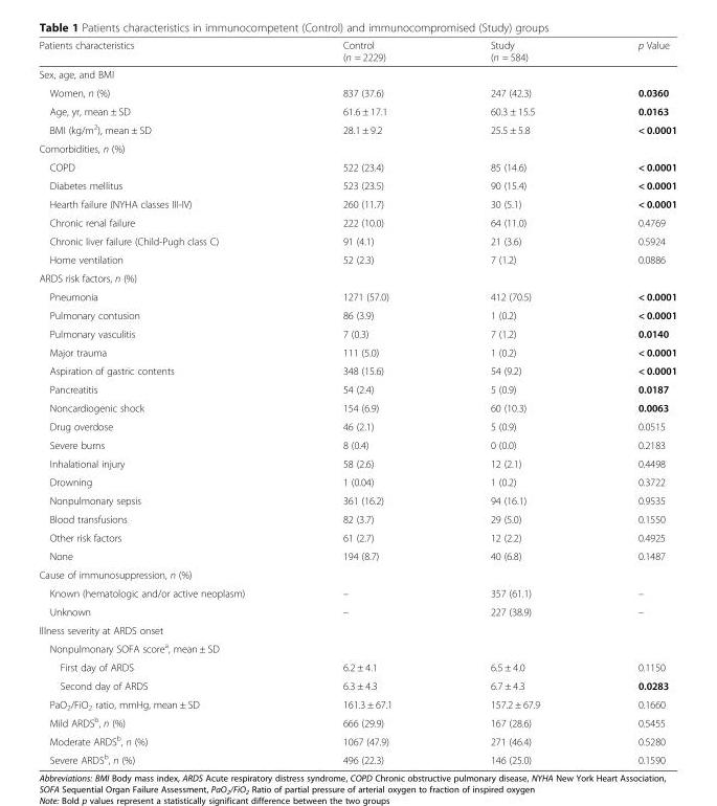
<table><thead><tr><td>Patients characteristics</td><td>Control (n = 2229)</td><td>Study (n = 584)</td><td>p Value</td></tr></thead><tbody><tr><td colspan="4">Sex, age, and BMI</td></tr><tr><td>Women, n (%)</td><td>837 (37.6)</td><td>247 (42.3)</td><td>0.0360</td></tr><tr><td>Age, yr, mean ± SD</td><td>61.6 ± 17.1</td><td>60.3 ± 15.5</td><td>0.0163</td></tr><tr><td>BMI (kg/m<sup>2</sup>), mean ± SD</td><td>28.1 ± 9.2</td><td>25.5 ± 5.8</td><td>&lt; 0.0001</td></tr><tr><td colspan="4">Comorbidities, n (%)</td></tr><tr><td>COPD</td><td>522 (23.4)</td><td>85 (14.6)</td><td>&lt; 0.0001</td></tr><tr><td>Diabetes mellitus</td><td>523 (23.5)</td><td>90 (15.4)</td><td>&lt; 0.0001</td></tr><tr><td>Hearth failure (NYHA classes III-IV)</td><td>260 (11.7)</td><td>30 (5.1)</td><td>&lt; 0.0001</td></tr><tr><td>Chronic renal failure</td><td>222 (10.0)</td><td>64 (11.0)</td><td>0.4769</td></tr><tr><td>Chronic liver failure (Child-Pugh class C)</td><td>91 (4.1)</td><td>21 (3.6)</td><td>0.5924</td></tr><tr><td>Home ventilation</td><td>52 (2.3)</td><td>7 (1.2)</td><td>0.0886</td></tr><tr><td colspan="4">ARDS risk factors, n (%)</td></tr><tr><td>Pneumonia</td><td>1271 (57.0)</td><td>412 (70.5)</td><td>&lt; 0.0001</td></tr><tr><td>Pulmonary contusion</td><td>86 (3.9)</td><td>1 (0.2)</td><td>&lt; 0.0001</td></tr><tr><td>Pulmonary vasculitis</td><td>7 (0.3)</td><td>7 (1.2)</td><td>0.0140</td></tr><tr><td>Major trauma</td><td>111 (5.0)</td><td>1 (0.2)</td><td>&lt; 0.0001</td></tr><tr><td>Aspiration of gastric contents</td><td>348 (15.6)</td><td>54 (9.2)</td><td>&lt; 0.0001</td></tr><tr><td>Pancreatitis</td><td>54 (2.4)</td><td>5 (0.9)</td><td>0.0187</td></tr><tr><td>Noncardiogenic shock</td><td>154 (6.9)</td><td>60 (10.3)</td><td>0.0063</td></tr><tr><td>Drug overdose</td><td>46 (2.1)</td><td>5 (0.9)</td><td>0.0515</td></tr><tr><td>Severe burns</td><td>8 (0.4)</td><td>0 (0.0)</td><td>0.2183</td></tr><tr><td>Inhalational injury</td><td>58 (2.6)</td><td>12 (2.1)</td><td>0.4498</td></tr><tr><td>Drowning</td><td>1 (0.04)</td><td>1 (0.2)</td><td>0.3722</td></tr><tr><td>Nonpulmonary sepsis</td><td>361 (16.2)</td><td>94 (16.1)</td><td>0.9535</td></tr><tr><td>Blood transfusions</td><td>82 (3.7)</td><td>29 (5.0)</td><td>0.1550</td></tr><tr><td>Other risk factors</td><td>61 (2.7)</td><td>12 (2.2)</td><td>0.4925</td></tr><tr><td>None</td><td>194 (8.7)</td><td>40 (6.8)</td><td>0.1487</td></tr><tr><td colspan="4">Cause of immunosuppression, n (%)</td></tr><tr><td>Known (hematologic and/or active neoplasm)</td><td>–</td><td>357 (61.1)</td><td>–</td></tr><tr><td>Unknown</td><td>–</td><td>227 (38.9)</td><td>–</td></tr><tr><td colspan="4">Illness severity at ARDS onset</td></tr><tr><td colspan="4">Nonpulmonary SOFA score<sup>a</sup>, mean ± SD</td></tr><tr><td>First day of ARDS</td><td>6.2 ± 4.1</td><td>6.5 ± 4.0</td><td>0.1150</td></tr><tr><td>Second day of ARDS</td><td>6.3 ± 4.3</td><td>6.7 ± 4.3</td><td>0.0283</td></tr><tr><td>PaO<sub>2</sub>/FiO<sub>2</sub> ratio, mmHg, mean ± SD</td><td>161.3 ± 67.1</td><td>157.2 ± 67.9</td><td>0.1660</td></tr><tr><td>Mild ARDS<sup>b</sup>, n (%)</td><td>666 (29.9)</td><td>167 (28.6)</td><td>0.5455</td></tr><tr><td>Moderate ARDS<sup>b</sup>, n (%)</td><td>1067 (47.9)</td><td>271 (46.4)</td><td>0.5280</td></tr><tr><td>Severe ARDS<sup>b</sup>, n (%)</td><td>496 (22.3)</td><td>146 (25.0)</td><td>0.1590</td></tr></tbody></table>